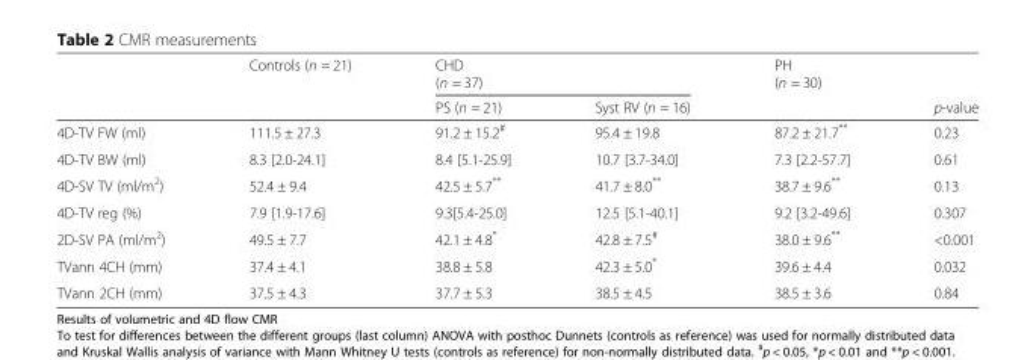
<table><thead><tr><td rowspan="2"></td><td rowspan="2">Controls (n = 21)</td><td colspan="2">CHD (n = 37)</td><td rowspan="2">PH (n = 30)</td><td rowspan="2">p-value</td></tr><tr><td>PS (n = 21)</td><td>Syst RV (n = 16)</td></tr></thead><tbody><tr><td>4D-TV FW (ml)</td><td>111.5 ± 27.3</td><td>91.2 ± 15.2<sup>#</sup></td><td>95.4 ± 19.8</td><td>87.2 ± 21.7**</td><td>0.23</td></tr><tr><td>4D-TV BW (ml)</td><td>8.3 [2.0-24.1]</td><td>8.4 [5.1-25.9]</td><td>10.7 [3.7-34.0]</td><td>7.3 [2.2-57.7]</td><td>0.61</td></tr><tr><td>4D-SV TV (ml/m<sup>2</sup>)</td><td>52.4 ± 9.4</td><td>42.5 ± 5.7**</td><td>41.7 ± 8.0**</td><td>38.7 ± 9.6**</td><td>0.13</td></tr><tr><td>4D-TV reg (%)</td><td>7.9 [1.9-17.6]</td><td>9.3[5.4-25.0]</td><td>12.5 [5.1-40.1]</td><td>9.2 [3.2-49.6]</td><td>0.307</td></tr><tr><td>2D-SV PA (ml/m<sup>2</sup>)</td><td>49.5 ± 7.7</td><td>42.1 ± 4.8*</td><td>42.8 ± 7.5<sup>#</sup></td><td>38.0 ± 9.6**</td><td>&lt;0.001</td></tr><tr><td>TVann 4CH (mm)</td><td>37.4 ± 4.1</td><td>38.8 ± 5.8</td><td>42.3 ± 5.0*</td><td>39.6 ± 4.4</td><td>0.032</td></tr><tr><td>TVann 2CH (mm)</td><td>37.5 ± 4.3</td><td>37.7 ± 5.3</td><td>38.5 ± 4.5</td><td>38.5 ± 3.6</td><td>0.84</td></tr></tbody></table>